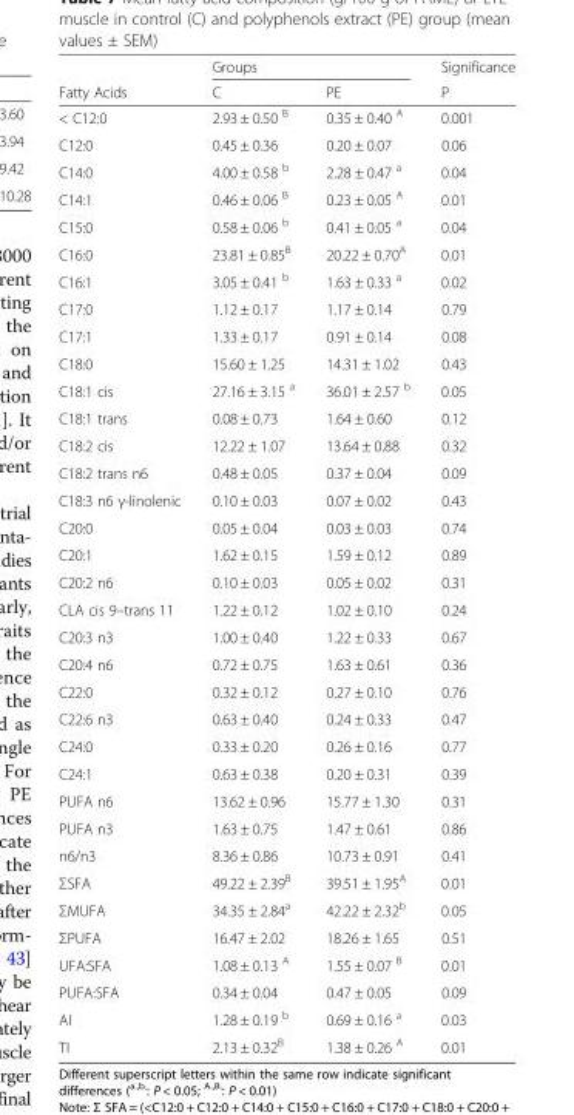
<table><thead><tr><td rowspan="2">Fatty Acids</td><td colspan="2">Groups</td><td rowspan="2">Significance P</td></tr><tr><td>C</td><td>PE</td></tr></thead><tbody><tr><td>&lt; C12:0</td><td>2.93 ± 0.50 <sup>B</sup></td><td>0.35 ± 0.40 <sup>A</sup></td><td>0.001</td></tr><tr><td>C12:0</td><td>0.45 ± 0.36</td><td>0.20 ± 0.07</td><td>0.06</td></tr><tr><td>C14:0</td><td>4.00 ± 0.58 <sup>b</sup></td><td>2.28 ± 0.47 <sup>a</sup></td><td>0.04</td></tr><tr><td>C14:1</td><td>0.46 ± 0.06 <sup>B</sup></td><td>0.23 ± 0.05 <sup>A</sup></td><td>0.01</td></tr><tr><td>C15:0</td><td>0.58 ± 0.06 <sup>b</sup></td><td>0.41 ± 0.05 <sup>a</sup></td><td>0.04</td></tr><tr><td>C16:0</td><td>23.81 ± 0.85<sup>B</sup></td><td>20.22 ± 0.70<sup>A</sup></td><td>0.01</td></tr><tr><td>C16:1</td><td>3.05 ± 0.41 <sup>b</sup></td><td>1.63 ± 0.33 <sup>a</sup></td><td>0.02</td></tr><tr><td>C17:0</td><td>1.12 ± 0.17</td><td>1.17 ± 0.14</td><td>0.79</td></tr><tr><td>C17:1</td><td>1.33 ± 0.17</td><td>0.91 ± 0.14</td><td>0.08</td></tr><tr><td>C18:0</td><td>15.60 ± 1.25</td><td>14.31 ± 1.02</td><td>0.43</td></tr><tr><td>C18:1 cis</td><td>27.16 ± 3.15 <sup>a</sup></td><td>36.01 ± 2.57 <sup>b</sup></td><td>0.05</td></tr><tr><td>C18:1 trans</td><td>0.08 ± 0.73</td><td>1.64 ± 0.60</td><td>0.12</td></tr><tr><td>C18:2 cis</td><td>12.22 ± 1.07</td><td>13.64 ± 0.88</td><td>0.32</td></tr><tr><td>C18:2 trans n6</td><td>0.48 ± 0.05</td><td>0.37 ± 0.04</td><td>0.09</td></tr><tr><td>C18:3 n6 γ-linolenic</td><td>0.10 ± 0.03</td><td>0.07 ± 0.02</td><td>0.43</td></tr><tr><td>C20:0</td><td>0.05 ± 0.04</td><td>0.03 ± 0.03</td><td>0.74</td></tr><tr><td>C20:1</td><td>1.62 ± 0.15</td><td>1.59 ± 0.12</td><td>0.89</td></tr><tr><td>C20:2 n6</td><td>0.10 ± 0.03</td><td>0.05 ± 0.02</td><td>0.31</td></tr><tr><td>CLA cis 9–trans 11</td><td>1.22 ± 0.12</td><td>1.02 ± 0.10</td><td>0.24</td></tr><tr><td>C20:3 n3</td><td>1.00 ± 0.40</td><td>1.22 ± 0.33</td><td>0.67</td></tr><tr><td>C20:4 n6</td><td>0.72 ± 0.75</td><td>1.63 ± 0.61</td><td>0.36</td></tr><tr><td>C22:0</td><td>0.32 ± 0.12</td><td>0.27 ± 0.10</td><td>0.76</td></tr><tr><td>C22:6 n3</td><td>0.63 ± 0.40</td><td>0.24 ± 0.33</td><td>0.47</td></tr><tr><td>C24:0</td><td>0.33 ± 0.20</td><td>0.26 ± 0.16</td><td>0.77</td></tr><tr><td>C24:1</td><td>0.63 ± 0.38</td><td>0.20 ± 0.31</td><td>0.39</td></tr><tr><td>PUFA n6</td><td>13.62 ± 0.96</td><td>15.77 ± 1.30</td><td>0.31</td></tr><tr><td>PUFA n3</td><td>1.63 ± 0.75</td><td>1.47 ± 0.61</td><td>0.86</td></tr><tr><td>n6/n3</td><td>8.36 ± 0.86</td><td>10.73 ± 0.91</td><td>0.41</td></tr><tr><td>ΣSFA</td><td>49.22 ± 2.39<sup>B</sup></td><td>39.51 ± 1.95<sup>A</sup></td><td>0.01</td></tr><tr><td>ΣMUFA</td><td>34.35 ± 2.84<sup>a</sup></td><td>42.22 ± 2.32<sup>b</sup></td><td>0.05</td></tr><tr><td>ΣPUFA</td><td>16.47 ± 2.02</td><td>18.26 ± 1.65</td><td>0.51</td></tr><tr><td>UFA:SFA</td><td>1.08 ± 0.13 <sup>A</sup></td><td>1.55 ± 0.07 <sup>B</sup></td><td>0.01</td></tr><tr><td>PUFA:SFA</td><td>0.34 ± 0.04</td><td>0.47 ± 0.05</td><td>0.09</td></tr><tr><td>AI</td><td>1.28 ± 0.19 <sup>b</sup></td><td>0.69 ± 0.16 <sup>a</sup></td><td>0.03</td></tr><tr><td>TI</td><td>2.13 ± 0.32<sup>B</sup></td><td>1.38 ± 0.26 <sup>A</sup></td><td>0.01</td></tr></tbody></table>